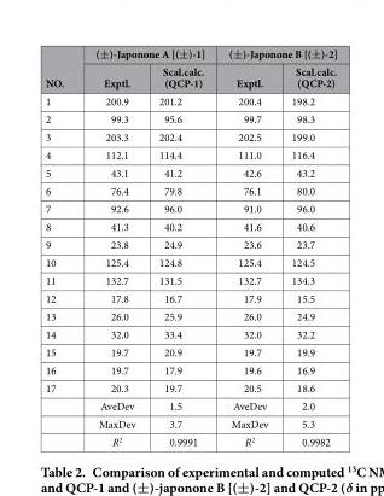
<table><thead><tr><td rowspan="2">NO.</td><td colspan="2">(±)-Japonone A [(±)-1]</td><td colspan="2">(±)-Japonone B [(±)-2]</td></tr><tr><td>Exptl.</td><td>Scal.calc. (QCP-1)</td><td>Exptl.</td><td>Scal.calc. (QCP-2)</td></tr></thead><tbody><tr><td>1</td><td>200.9</td><td>201.2</td><td>200.4</td><td>198.2</td></tr><tr><td>2</td><td>99.3</td><td>95.6</td><td>99.7</td><td>98.3</td></tr><tr><td>3</td><td>203.3</td><td>202.4</td><td>202.5</td><td>199.0</td></tr><tr><td>4</td><td>112.1</td><td>114.4</td><td>111.0</td><td>116.4</td></tr><tr><td>5</td><td>43.1</td><td>41.2</td><td>42.6</td><td>43.2</td></tr><tr><td>6</td><td>76.4</td><td>79.8</td><td>76.1</td><td>80.0</td></tr><tr><td>7</td><td>92.6</td><td>96.0</td><td>91.0</td><td>96.0</td></tr><tr><td>8</td><td>41.3</td><td>40.2</td><td>41.6</td><td>40.6</td></tr><tr><td>9</td><td>23.8</td><td>24.9</td><td>23.6</td><td>23.7</td></tr><tr><td>10</td><td>125.4</td><td>124.8</td><td>125.4</td><td>124.5</td></tr><tr><td>11</td><td>132.7</td><td>131.5</td><td>132.7</td><td>134.3</td></tr><tr><td>12</td><td>17.8</td><td>16.7</td><td>17.9</td><td>15.5</td></tr><tr><td>13</td><td>26.0</td><td>25.9</td><td>26.0</td><td>24.9</td></tr><tr><td>14</td><td>32.0</td><td>33.4</td><td>32.0</td><td>32.2</td></tr><tr><td>15</td><td>19.7</td><td>20.9</td><td>19.7</td><td>19.9</td></tr><tr><td>16</td><td>19.7</td><td>17.9</td><td>19.6</td><td>16.9</td></tr><tr><td rowspan="4">17</td><td>20.3</td><td>19.7</td><td>20.5</td><td>18.6</td></tr><tr><td>AveDev</td><td>1.5</td><td>AveDev</td><td>2.0</td></tr><tr><td>MaxDev</td><td>3.7</td><td>MaxDev</td><td>5.3</td></tr><tr><td>R<sup>2</sup></td><td>0.9991</td><td>R<sup>2</sup></td><td>0.9982</td></tr></tbody></table>